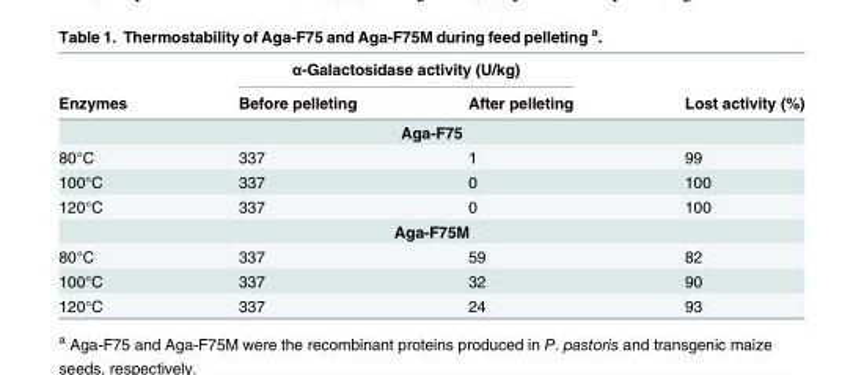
<table><thead><tr><td rowspan="2">Enzymes</td><td colspan="2">α-Galactosidase activity (U/kg)</td><td rowspan="2">Lost activity (%)</td></tr><tr><td>Before pelleting</td><td>After pelleting</td></tr></thead><tbody><tr><td colspan="4">Aga-F75</td></tr><tr><td>80°C</td><td>337</td><td>1</td><td>99</td></tr><tr><td>100°C</td><td>337</td><td>0</td><td>100</td></tr><tr><td>120°C</td><td>337</td><td>0</td><td>100</td></tr><tr><td colspan="4">Aga-F75M</td></tr><tr><td>80°C</td><td>337</td><td>59</td><td>82</td></tr><tr><td>100°C</td><td>337</td><td>32</td><td>90</td></tr><tr><td>120°C</td><td>337</td><td>24</td><td>93</td></tr></tbody></table>